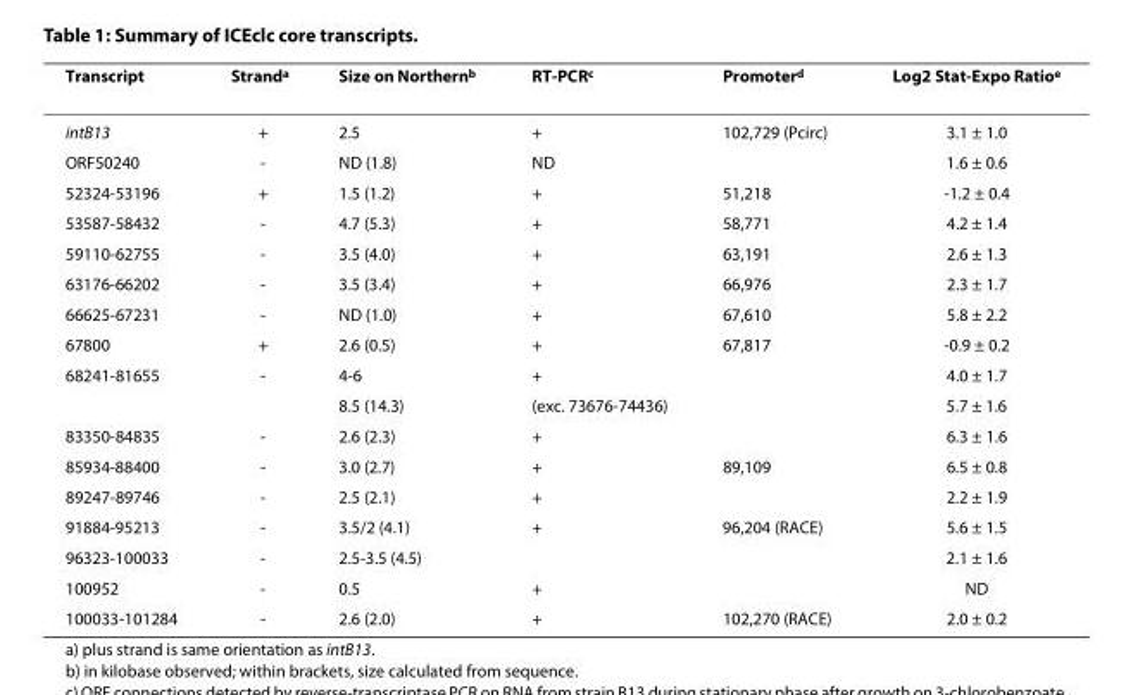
<table><thead><tr><td>Transcript</td><td>Strand<sup>a</sup></td><td>Size on Northern<sup>b</sup></td><td>RT-PCR<sup>c</sup></td><td>Promoter<sup>d</sup></td><td>Log2 Stat-Expo Ratio<sup>e</sup></td></tr></thead><tbody><tr><td>intB13</td><td>+</td><td>2.5</td><td>+</td><td>102,729 (Pcirc)</td><td>3.1 ± 1.0</td></tr><tr><td>ORF50240</td><td>-</td><td>ND (1.8)</td><td>ND</td><td></td><td>1.6 ± 0.6</td></tr><tr><td>52324-53196</td><td>+</td><td>1.5 (1.2)</td><td>+</td><td>51,218</td><td>-1.2 ± 0.4</td></tr><tr><td>53587-58432</td><td>-</td><td>4.7 (5.3)</td><td>+</td><td>58,771</td><td>4.2 ± 1.4</td></tr><tr><td>59110-62755</td><td>-</td><td>3.5 (4.0)</td><td>+</td><td>63,191</td><td>2.6 ± 1.3</td></tr><tr><td>63176-66202</td><td>-</td><td>3.5 (3.4)</td><td>+</td><td>66,976</td><td>2.3 ± 1.7</td></tr><tr><td>66625-67231</td><td>-</td><td>ND (1.0)</td><td>+</td><td>67,610</td><td>5.8 ± 2.2</td></tr><tr><td>67800</td><td>+</td><td>2.6 (0.5)</td><td>+</td><td>67,817</td><td>-0.9 ± 0.2</td></tr><tr><td rowspan="2">68241-81655</td><td>-</td><td>4-6</td><td>+</td><td></td><td>4.0 ± 1.7</td></tr><tr><td></td><td>8.5 (14.3)</td><td>(exc. 73676-74436)</td><td></td><td>5.7 ± 1.6</td></tr><tr><td>83350-84835</td><td>-</td><td>2.6 (2.3)</td><td>+</td><td></td><td>6.3 ± 1.6</td></tr><tr><td>85934-88400</td><td>-</td><td>3.0 (2.7)</td><td>+</td><td>89,109</td><td>6.5 ± 0.8</td></tr><tr><td>89247-89746</td><td>-</td><td>2.5 (2.1)</td><td>+</td><td></td><td>2.2 ± 1.9</td></tr><tr><td>91884-95213</td><td>-</td><td>3.5/2 (4.1)</td><td>+</td><td>96,204 (RACE)</td><td>5.6 ± 1.5</td></tr><tr><td>96323-100033</td><td>-</td><td>2.5-3.5 (4.5)</td><td></td><td></td><td>2.1 ± 1.6</td></tr><tr><td>100952</td><td>-</td><td>0.5</td><td>+</td><td></td><td>ND</td></tr><tr><td>100033-101284</td><td>-</td><td>2.6 (2.0)</td><td>+</td><td>102,270 (RACE)</td><td>2.0 ± 0.2</td></tr></tbody></table>